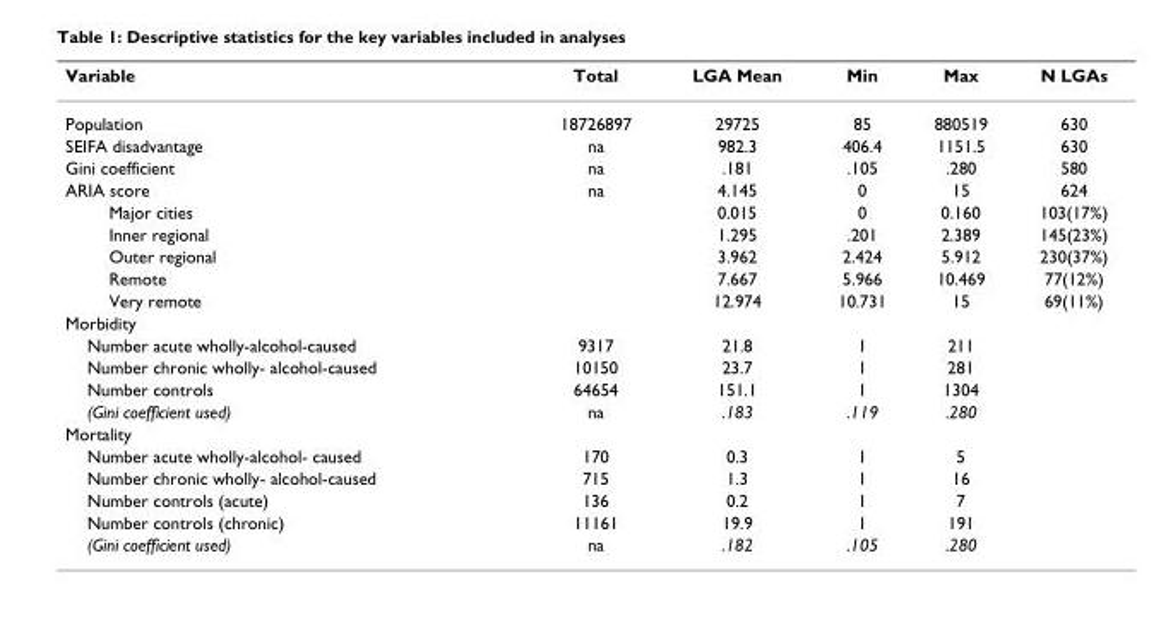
<table><thead><tr><td>Variable</td><td>Total</td><td>LGA Mean</td><td>Min</td><td>Max</td><td>N LGAs</td></tr></thead><tbody><tr><td>Population</td><td>18726897</td><td>29725</td><td>85</td><td>880519</td><td>630</td></tr><tr><td>SEIFA disadvantage</td><td>na</td><td>982.3</td><td>406.4</td><td>1151.5</td><td>630</td></tr><tr><td>Gini coefficient</td><td>na</td><td>.181</td><td>.105</td><td>.280</td><td>580</td></tr><tr><td>ARIA score</td><td>na</td><td>4.145</td><td>0</td><td>15</td><td>624</td></tr><tr><td>Major cities</td><td></td><td>0.015</td><td>0</td><td>0.160</td><td>103(17%)</td></tr><tr><td>Inner regional</td><td></td><td>1.295</td><td>.201</td><td>2.389</td><td>145(23%)</td></tr><tr><td>Outer regional</td><td></td><td>3.962</td><td>2.424</td><td>5.912</td><td>230(37%)</td></tr><tr><td>Remote</td><td></td><td>7.667</td><td>5.966</td><td>10.469</td><td>77(12%)</td></tr><tr><td>Very remote</td><td></td><td>12.974</td><td>10.731</td><td>15</td><td>69(11%)</td></tr><tr><td colspan="6">Morbidity</td></tr><tr><td>Number acute wholly-alcohol-caused</td><td>9317</td><td>21.8</td><td>1</td><td>211</td><td></td></tr><tr><td>Number chronic wholly- alcohol-caused</td><td>10150</td><td>23.7</td><td>1</td><td>281</td><td></td></tr><tr><td>Number controls</td><td>64654</td><td>151.1</td><td>1</td><td>1304</td><td></td></tr><tr><td>(Gini coefficient used)</td><td>na</td><td>.183</td><td>.119</td><td>.280</td><td></td></tr><tr><td colspan="6">Mortality</td></tr><tr><td>Number acute wholly-alcohol- caused</td><td>170</td><td>0.3</td><td>1</td><td>5</td><td></td></tr><tr><td>Number chronic wholly- alcohol-caused</td><td>715</td><td>1.3</td><td>1</td><td>16</td><td></td></tr><tr><td>Number controls (acute)</td><td>136</td><td>0.2</td><td>1</td><td>7</td><td></td></tr><tr><td>Number controls (chronic)</td><td>11161</td><td>19.9</td><td>1</td><td>191</td><td></td></tr><tr><td>(Gini coefficient used)</td><td>na</td><td>.182</td><td>.105</td><td>.280</td><td></td></tr></tbody></table>